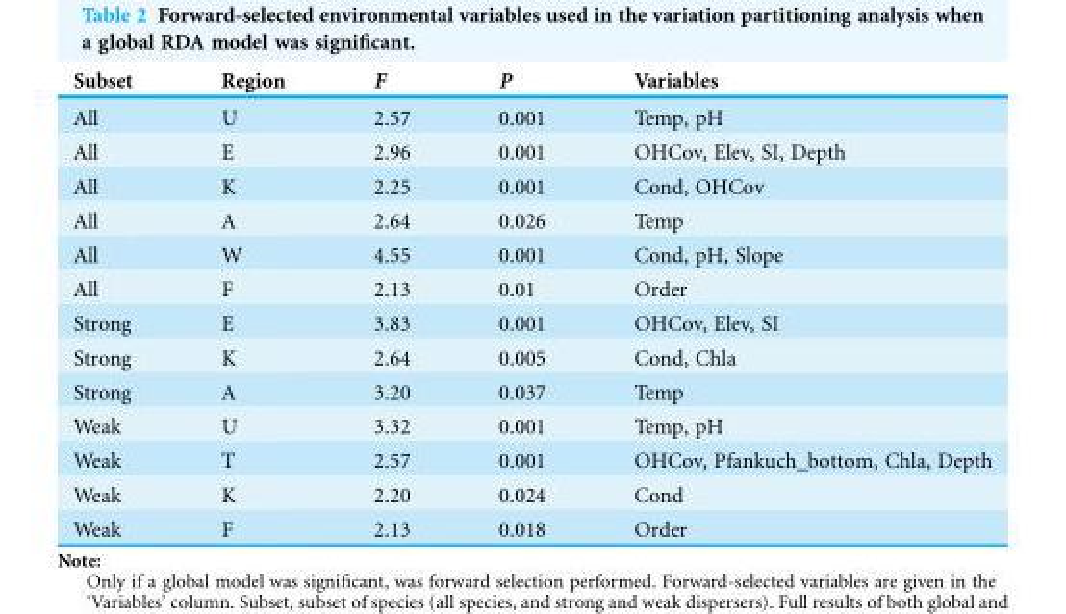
<table><thead><tr><td>Subset</td><td>Region</td><td>F</td><td>P</td><td>Variables</td></tr></thead><tbody><tr><td>All</td><td>U</td><td>2.57</td><td>0.001</td><td>Temp, pH</td></tr><tr><td>All</td><td>E</td><td>2.96</td><td>0.001</td><td>OHCov, Elev, SI, Depth</td></tr><tr><td>All</td><td>K</td><td>2.25</td><td>0.001</td><td>Cond, OHCov</td></tr><tr><td>All</td><td>A</td><td>2.64</td><td>0.026</td><td>Temp</td></tr><tr><td>All</td><td>W</td><td>4.55</td><td>0.001</td><td>Cond, pH, Slope</td></tr><tr><td>All</td><td>F</td><td>2.13</td><td>0.01</td><td>Order</td></tr><tr><td>Strong</td><td>E</td><td>3.83</td><td>0.001</td><td>OHCov, Elev, SI</td></tr><tr><td>Strong</td><td>K</td><td>2.64</td><td>0.005</td><td>Cond, Chla</td></tr><tr><td>Strong</td><td>A</td><td>3.20</td><td>0.037</td><td>Temp</td></tr><tr><td>Weak</td><td>U</td><td>3.32</td><td>0.001</td><td>Temp, pH</td></tr><tr><td>Weak</td><td>T</td><td>2.57</td><td>0.001</td><td>OHCov, Pfankuch_bottom, Chla, Depth</td></tr><tr><td>Weak</td><td>K</td><td>2.20</td><td>0.024</td><td>Cond</td></tr><tr><td>Weak</td><td>F</td><td>2.13</td><td>0.018</td><td>Order</td></tr></tbody></table>